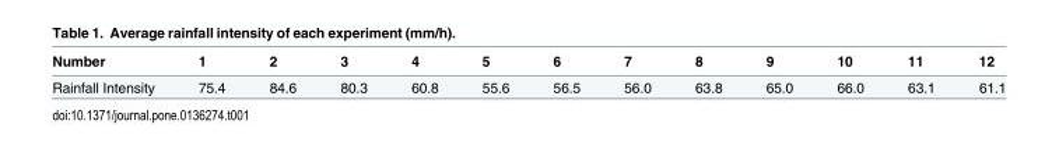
<table><thead><tr><td>Number</td><td>1</td><td>2</td><td>3</td><td>4</td><td>5</td><td>6</td><td>7</td><td>8</td><td>9</td><td>10</td><td>11</td><td>12</td></tr></thead><tbody><tr><td>Rainfall Intensity</td><td>75.4</td><td>84.6</td><td>80.3</td><td>60.8</td><td>55.6</td><td>56.5</td><td>56.0</td><td>63.8</td><td>65.0</td><td>66.0</td><td>63.1</td><td>61.1</td></tr></tbody></table>